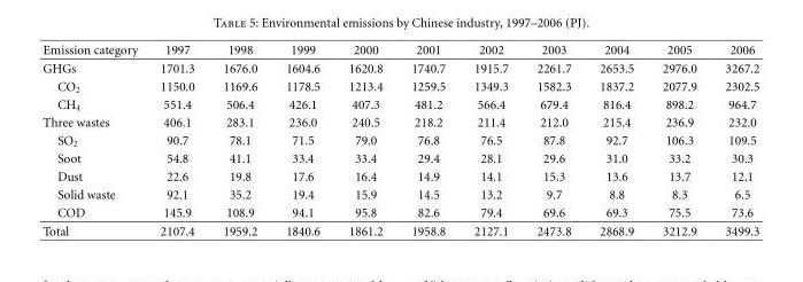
<table><thead><tr><td>Emission category</td><td>1997</td><td>1998</td><td>1999</td><td>2000</td><td>2001</td><td>2002</td><td>2003</td><td>2004</td><td>2005</td><td>2006</td></tr></thead><tbody><tr><td>GHGs</td><td>1701.3</td><td>1676.0</td><td>1604.6</td><td>1620.8</td><td>1740.7</td><td>1915.7</td><td>2261.7</td><td>2653.5</td><td>2976.0</td><td>3267.2</td></tr><tr><td>CO<sub>2</sub></td><td>1150.0</td><td>1169.6</td><td>1178.5</td><td>1213.4</td><td>1259.5</td><td>1349.3</td><td>1582.3</td><td>1837.2</td><td>2077.9</td><td>2302.5</td></tr><tr><td>CH<sub>4</sub></td><td>551.4</td><td>506.4</td><td>426.1</td><td>407.3</td><td>481.2</td><td>566.4</td><td>679.4</td><td>816.4</td><td>898.2</td><td>964.7</td></tr><tr><td>Three wastes</td><td>406.1</td><td>283.1</td><td>236.0</td><td>240.5</td><td>218.2</td><td>211.4</td><td>212.0</td><td>215.4</td><td>236.9</td><td>232.0</td></tr><tr><td>SO<sub>2</sub></td><td>90.7</td><td>78.1</td><td>71.5</td><td>79.0</td><td>76.8</td><td>76.5</td><td>87.8</td><td>92.7</td><td>106.3</td><td>109.5</td></tr><tr><td>Soot</td><td>54.8</td><td>41.1</td><td>33.4</td><td>33.4</td><td>29.4</td><td>28.1</td><td>29.6</td><td>31.0</td><td>33.2</td><td>30.3</td></tr><tr><td>Dust</td><td>22.6</td><td>19.8</td><td>17.6</td><td>16.4</td><td>14.9</td><td>14.1</td><td>15.3</td><td>13.6</td><td>13.7</td><td>12.1</td></tr><tr><td>Solid waste</td><td>92.1</td><td>35.2</td><td>19.4</td><td>15.9</td><td>14.5</td><td>13.2</td><td>9.7</td><td>8.8</td><td>8.3</td><td>6.5</td></tr><tr><td>COD</td><td>145.9</td><td>108.9</td><td>94.1</td><td>95.8</td><td>82.6</td><td>79.4</td><td>69.6</td><td>69.3</td><td>75.5</td><td>73.6</td></tr><tr><td>Total</td><td>2107.4</td><td>1959.2</td><td>1840.6</td><td>1861.2</td><td>1958.8</td><td>2127.1</td><td>2473.8</td><td>2868.9</td><td>3212.9</td><td>3499.3</td></tr></tbody></table>